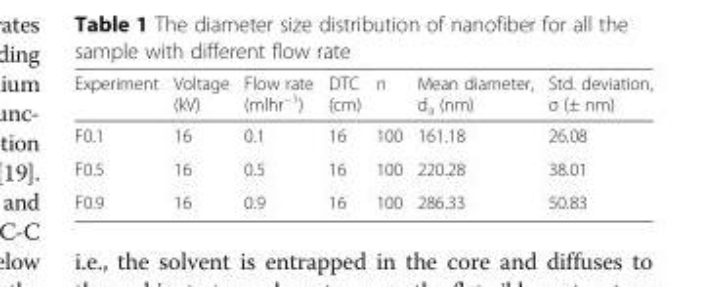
<table><thead><tr><td>Experiment</td><td>Voltage (kV)</td><td>Flow rate (mlhr<sup>−1</sup>)</td><td>DTC (cm)</td><td>n</td><td>Mean diameter, d<sub>a</sub> (nm)</td><td>Std. deviation, σ (± nm)</td></tr></thead><tbody><tr><td>F0.1</td><td>16</td><td>0.1</td><td>16</td><td>100</td><td>161.18</td><td>26.08</td></tr><tr><td>F0.5</td><td>16</td><td>0.5</td><td>16</td><td>100</td><td>220.28</td><td>38.01</td></tr><tr><td>F0.9</td><td>16</td><td>0.9</td><td>16</td><td>100</td><td>286.33</td><td>50.83</td></tr></tbody></table>